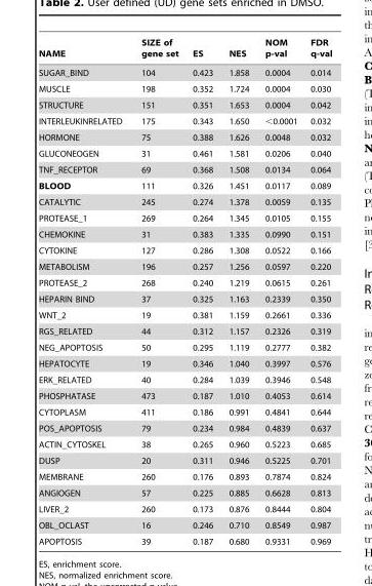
<table><thead><tr><td>NAME</td><td>SIZE of gene set</td><td>ES</td><td>NES</td><td>NOM p-val</td><td>FDR q-val</td></tr></thead><tbody><tr><td>SUGAR_BIND</td><td>104</td><td>0.423</td><td>1.858</td><td>0.0004</td><td>0.014</td></tr><tr><td>MUSCLE</td><td>198</td><td>0.352</td><td>1.724</td><td>0.0004</td><td>0.030</td></tr><tr><td>STRUCTURE</td><td>151</td><td>0.351</td><td>1.653</td><td>0.0004</td><td>0.042</td></tr><tr><td>INTERLEUKINRELATED</td><td>175</td><td>0.343</td><td>1.650</td><td>&lt;0.0001</td><td>0.032</td></tr><tr><td>HORMONE</td><td>75</td><td>0.388</td><td>1.626</td><td>0.0048</td><td>0.032</td></tr><tr><td>GLUCONEOGEN</td><td>31</td><td>0.461</td><td>1.581</td><td>0.0206</td><td>0.040</td></tr><tr><td>TNF_RECEPTOR</td><td>69</td><td>0.368</td><td>1.508</td><td>0.0134</td><td>0.064</td></tr><tr><td>BLOOD</td><td>111</td><td>0.326</td><td>1.451</td><td>0.0117</td><td>0.089</td></tr><tr><td>CATALYTIC</td><td>245</td><td>0.274</td><td>1.378</td><td>0.0059</td><td>0.135</td></tr><tr><td>PROTEASE_1</td><td>269</td><td>0.264</td><td>1.345</td><td>0.0105</td><td>0.155</td></tr><tr><td>CHEMOKINE</td><td>31</td><td>0.383</td><td>1.335</td><td>0.0990</td><td>0.151</td></tr><tr><td>CYTOKINE</td><td>127</td><td>0.286</td><td>1.308</td><td>0.0522</td><td>0.166</td></tr><tr><td>METABOLISM</td><td>196</td><td>0.257</td><td>1.256</td><td>0.0597</td><td>0.220</td></tr><tr><td>PROTEASE_2</td><td>268</td><td>0.240</td><td>1.219</td><td>0.0615</td><td>0.261</td></tr><tr><td>HEPARIN BIND</td><td>37</td><td>0.325</td><td>1.163</td><td>0.2339</td><td>0.350</td></tr><tr><td>WNT_2</td><td>19</td><td>0.381</td><td>1.159</td><td>0.2661</td><td>0.336</td></tr><tr><td>RGS_RELATED</td><td>44</td><td>0.312</td><td>1.157</td><td>0.2326</td><td>0.319</td></tr><tr><td>NEG_APOPTOSIS</td><td>50</td><td>0.295</td><td>1.119</td><td>0.2777</td><td>0.382</td></tr><tr><td>HEPATOCYTE</td><td>19</td><td>0.346</td><td>1.040</td><td>0.3997</td><td>0.576</td></tr><tr><td>ERK_RELATED</td><td>40</td><td>0.284</td><td>1.039</td><td>0.3946</td><td>0.548</td></tr><tr><td>PHOSPHATASE</td><td>473</td><td>0.187</td><td>1.010</td><td>0.4053</td><td>0.614</td></tr><tr><td>CYTOPLASM</td><td>411</td><td>0.186</td><td>0.991</td><td>0.4841</td><td>0.644</td></tr><tr><td>POS_APOPTOSIS</td><td>79</td><td>0.234</td><td>0.984</td><td>0.4839</td><td>0.637</td></tr><tr><td>ACTIN_CYTOSKEL</td><td>38</td><td>0.265</td><td>0.960</td><td>0.5223</td><td>0.685</td></tr><tr><td>DUSP</td><td>20</td><td>0.311</td><td>0.946</td><td>0.5225</td><td>0.701</td></tr><tr><td>MEMBRANE</td><td>260</td><td>0.176</td><td>0.893</td><td>0.7874</td><td>0.824</td></tr><tr><td>ANGIOGEN</td><td>57</td><td>0.225</td><td>0.885</td><td>0.6628</td><td>0.813</td></tr><tr><td>LIVER_2</td><td>260</td><td>0.173</td><td>0.876</td><td>0.8444</td><td>0.804</td></tr><tr><td>OBL_OCLAST</td><td>16</td><td>0.246</td><td>0.710</td><td>0.8549</td><td>0.987</td></tr><tr><td>APOPTOSIS</td><td>39</td><td>0.187</td><td>0.680</td><td>0.9331</td><td>0.969</td></tr></tbody></table>